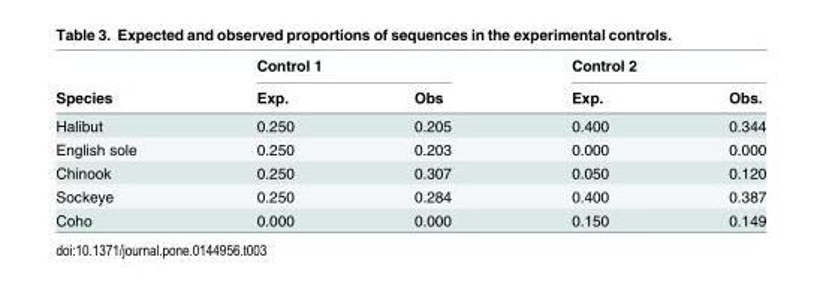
<table><thead><tr><td rowspan="2">Species</td><td colspan="2">Control 1</td><td colspan="2">Control 2</td></tr><tr><td>Exp.</td><td>Obs</td><td>Exp.</td><td>Obs.</td></tr></thead><tbody><tr><td>Halibut</td><td>0.250</td><td>0.205</td><td>0.400</td><td>0.344</td></tr><tr><td>English sole</td><td>0.250</td><td>0.203</td><td>0.000</td><td>0.000</td></tr><tr><td>Chinook</td><td>0.250</td><td>0.307</td><td>0.050</td><td>0.120</td></tr><tr><td>Sockeye</td><td>0.250</td><td>0.284</td><td>0.400</td><td>0.387</td></tr><tr><td>Coho</td><td>0.000</td><td>0.000</td><td>0.150</td><td>0.149</td></tr></tbody></table>